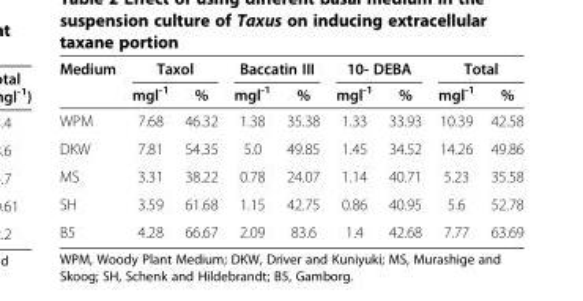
<table><thead><tr><td rowspan="2">Medium</td><td colspan="2">Taxol</td><td colspan="2">Baccatin III</td><td colspan="2">10- DEBA</td><td colspan="2">Total</td></tr><tr><td>mgl<sup>-1</sup></td><td>%</td><td>mgl<sup>-1</sup></td><td>%</td><td>mgl<sup>-1</sup></td><td>%</td><td>mgl<sup>-1</sup></td><td>%</td></tr></thead><tbody><tr><td>WPM</td><td>7.68</td><td>46.32</td><td>1.38</td><td>35.38</td><td>1.33</td><td>33.93</td><td>10.39</td><td>42.58</td></tr><tr><td>DKW</td><td>7.81</td><td>54.35</td><td>5.0</td><td>49.85</td><td>1.45</td><td>34.52</td><td>14.26</td><td>49.86</td></tr><tr><td>MS</td><td>3.31</td><td>38.22</td><td>0.78</td><td>24.07</td><td>1.14</td><td>40.71</td><td>5.23</td><td>35.58</td></tr><tr><td>SH</td><td>3.59</td><td>61.68</td><td>1.15</td><td>42.75</td><td>0.86</td><td>40.95</td><td>5.6</td><td>52.78</td></tr><tr><td>B5</td><td>4.28</td><td>66.67</td><td>2.09</td><td>83.6</td><td>1.4</td><td>42.68</td><td>7.77</td><td>63.69</td></tr></tbody></table>